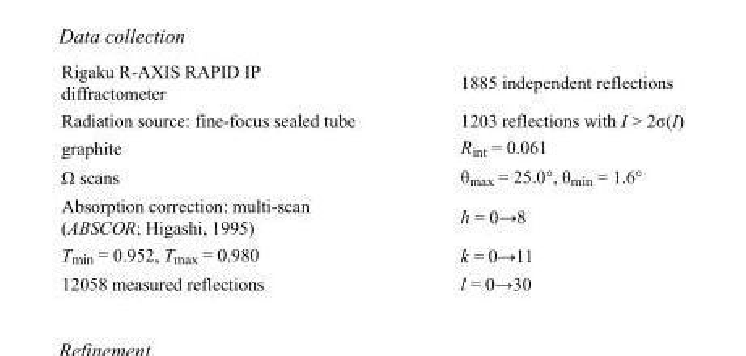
<table><tbody><tr><td>Rigaku R-AXIS RAPID IP diffractometer</td><td>1885 independent reflections</td></tr><tr><td>Radiation source: fine-focus sealed tube</td><td>1203 reflections with I &gt; 2σ(I)</td></tr><tr><td>graphite</td><td>R<sub>int</sub> = 0.061</td></tr><tr><td>Ω scans</td><td>θ<sub>max</sub> = 25.0°, θ<sub>min</sub> = 1.6°</td></tr><tr><td>Absorption correction: multi-scan (ABSCOR; Higashi, 1995)</td><td>h = 0→8</td></tr><tr><td>T<sub>min</sub> = 0.952, T<sub>max</sub> = 0.980</td><td>k = 0→11</td></tr><tr><td>12058 measured reflections</td><td>l = 0→30</td></tr></tbody></table>